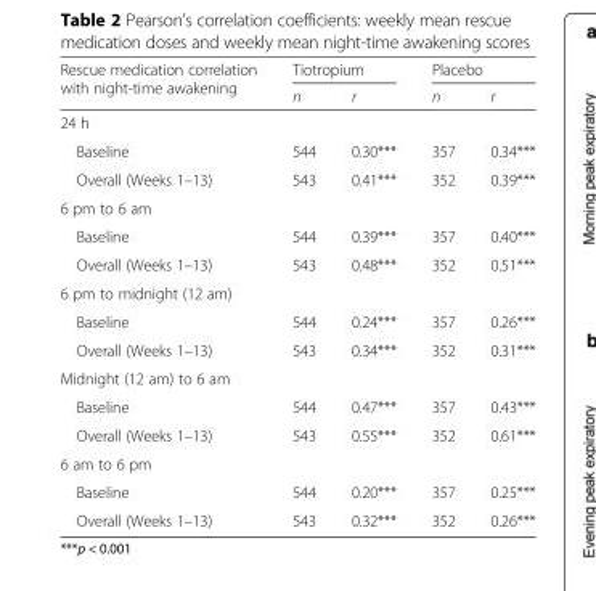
<table><thead><tr><td rowspan="2">Rescue medication correlation with night-time awakening</td><td colspan="2">Tiotropium</td><td colspan="2">Placebo</td></tr><tr><td>n</td><td>r</td><td>n</td><td>r</td></tr></thead><tbody><tr><td colspan="5">24 h</td></tr><tr><td>Baseline</td><td>544</td><td>0.30***</td><td>357</td><td>0.34***</td></tr><tr><td>Overall (Weeks 1–13)</td><td>543</td><td>0.41***</td><td>352</td><td>0.39***</td></tr><tr><td colspan="5">6 pm to 6 am</td></tr><tr><td>Baseline</td><td>544</td><td>0.39***</td><td>357</td><td>0.40***</td></tr><tr><td>Overall (Weeks 1–13)</td><td>543</td><td>0.48***</td><td>352</td><td>0.51***</td></tr><tr><td colspan="5">6 pm to midnight (12 am)</td></tr><tr><td>Baseline</td><td>544</td><td>0.24***</td><td>357</td><td>0.26***</td></tr><tr><td>Overall (Weeks 1–13)</td><td>543</td><td>0.34***</td><td>352</td><td>0.31***</td></tr><tr><td colspan="5">Midnight (12 am) to 6 am</td></tr><tr><td>Baseline</td><td>544</td><td>0.47***</td><td>357</td><td>0.43***</td></tr><tr><td>Overall (Weeks 1–13)</td><td>543</td><td>0.55***</td><td>352</td><td>0.61***</td></tr><tr><td colspan="5">6 am to 6 pm</td></tr><tr><td>Baseline</td><td>544</td><td>0.20***</td><td>357</td><td>0.25***</td></tr><tr><td>Overall (Weeks 1–13)</td><td>543</td><td>0.32***</td><td>352</td><td>0.26***</td></tr></tbody></table>